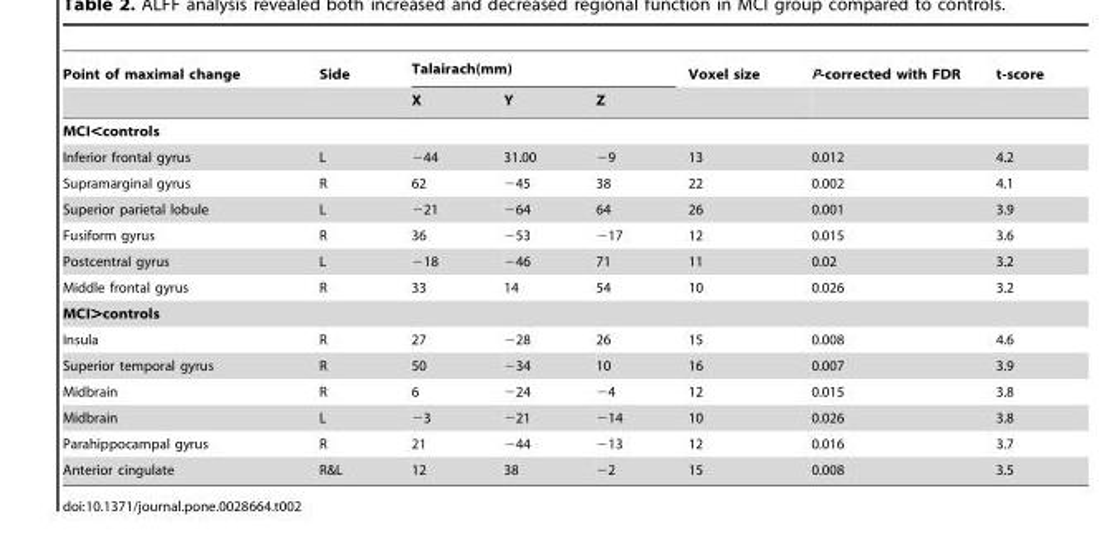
<table><thead><tr><td rowspan="2">Point of maximal change</td><td rowspan="2">Side</td><td colspan="3">Talairach(mm)</td><td rowspan="2">Voxel size</td><td rowspan="2">P-corrected with FDR</td><td rowspan="2">t-score</td></tr><tr><td>X</td><td>Y</td><td>Z</td></tr></thead><tbody><tr><td colspan="8">MCI&lt;controls</td></tr><tr><td>Inferior frontal gyrus</td><td>L</td><td>−44</td><td>31.00</td><td>−9</td><td>13</td><td>0.012</td><td>4.2</td></tr><tr><td>Supramarginal gyrus</td><td>R</td><td>62</td><td>−45</td><td>38</td><td>22</td><td>0.002</td><td>4.1</td></tr><tr><td>Superior parietal lobule</td><td>L</td><td>−21</td><td>−64</td><td>64</td><td>26</td><td>0.001</td><td>3.9</td></tr><tr><td>Fusiform gyrus</td><td>R</td><td>36</td><td>−53</td><td>−17</td><td>12</td><td>0.015</td><td>3.6</td></tr><tr><td>Postcentral gyrus</td><td>L</td><td>−18</td><td>−46</td><td>71</td><td>11</td><td>0.02</td><td>3.2</td></tr><tr><td>Middle frontal gyrus</td><td>R</td><td>33</td><td>14</td><td>54</td><td>10</td><td>0.026</td><td>3.2</td></tr><tr><td colspan="8">MCI&gt;controls</td></tr><tr><td>Insula</td><td>R</td><td>27</td><td>−28</td><td>26</td><td>15</td><td>0.008</td><td>4.6</td></tr><tr><td>Superior temporal gyrus</td><td>R</td><td>50</td><td>−34</td><td>10</td><td>16</td><td>0.007</td><td>3.9</td></tr><tr><td>Midbrain</td><td>R</td><td>6</td><td>−24</td><td>−4</td><td>12</td><td>0.015</td><td>3.8</td></tr><tr><td>Midbrain</td><td>L</td><td>−3</td><td>−21</td><td>−14</td><td>10</td><td>0.026</td><td>3.8</td></tr><tr><td>Parahippocampal gyrus</td><td>R</td><td>21</td><td>−44</td><td>−13</td><td>12</td><td>0.016</td><td>3.7</td></tr><tr><td>Anterior cingulate</td><td>R&amp;L</td><td>12</td><td>38</td><td>−2</td><td>15</td><td>0.008</td><td>3.5</td></tr></tbody></table>